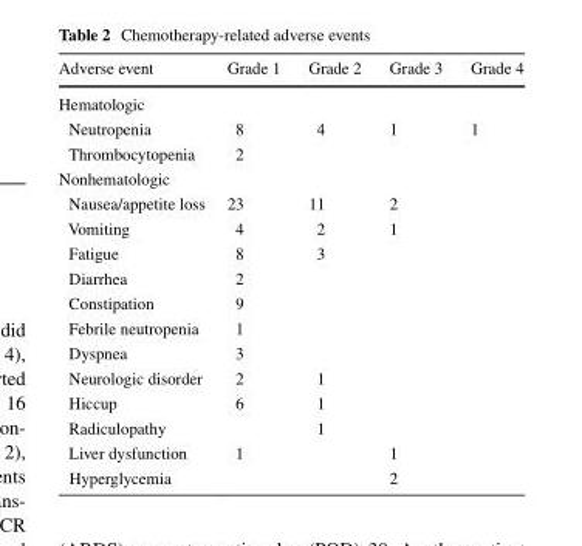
<table><thead><tr><td>Adverse event</td><td>Grade 1</td><td>Grade 2</td><td>Grade 3</td><td>Grade 4</td></tr></thead><tbody><tr><td colspan="5">Hematologic</td></tr><tr><td>Neutropenia</td><td>8</td><td>4</td><td>1</td><td>1</td></tr><tr><td>Thrombocytopenia</td><td>2</td><td></td><td></td><td></td></tr><tr><td colspan="5">Nonhematologic</td></tr><tr><td>Nausea/appetite loss</td><td>23</td><td>11</td><td>2</td><td></td></tr><tr><td>Vomiting</td><td>4</td><td>2</td><td>1</td><td></td></tr><tr><td>Fatigue</td><td>8</td><td>3</td><td></td><td></td></tr><tr><td>Diarrhea</td><td>2</td><td></td><td></td><td></td></tr><tr><td>Constipation</td><td>9</td><td></td><td></td><td></td></tr><tr><td>Febrile neutropenia</td><td>1</td><td></td><td></td><td></td></tr><tr><td>Dyspnea</td><td>3</td><td></td><td></td><td></td></tr><tr><td>Neurologic disorder</td><td>2</td><td>1</td><td></td><td></td></tr><tr><td>Hiccup</td><td>6</td><td>1</td><td></td><td></td></tr><tr><td>Radiculopathy</td><td></td><td>1</td><td></td><td></td></tr><tr><td>Liver dysfunction</td><td>1</td><td></td><td>1</td><td></td></tr><tr><td>Hyperglycemia</td><td></td><td></td><td>2</td><td></td></tr></tbody></table>